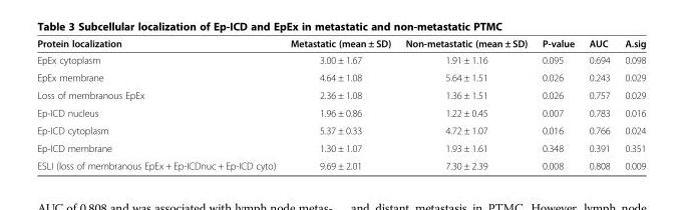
<table><thead><tr><td>Protein localization</td><td>Metastatic (mean ± SD)</td><td>Non-metastatic (mean ± SD)</td><td>P-value</td><td>AUC</td><td>A.sig</td></tr></thead><tbody><tr><td>EpEx cytoplasm</td><td>3.00 ± 1.67</td><td>1.91 ± 1.16</td><td>0.095</td><td>0.694</td><td>0.098</td></tr><tr><td>EpEx membrane</td><td>4.64 ± 1.08</td><td>5.64 ± 1.51</td><td>0.026</td><td>0.243</td><td>0.029</td></tr><tr><td>Loss of membranous EpEx</td><td>2.36 ± 1.08</td><td>1.36 ± 1.51</td><td>0.026</td><td>0.757</td><td>0.029</td></tr><tr><td>Ep-ICD nucleus</td><td>1.96 ± 0.86</td><td>1.22 ± 0.45</td><td>0.007</td><td>0.783</td><td>0.016</td></tr><tr><td>Ep-ICD cytoplasm</td><td>5.37 ± 0.33</td><td>4.72 ± 1.07</td><td>0.016</td><td>0.766</td><td>0.024</td></tr><tr><td>Ep-ICD membrane</td><td>1.30 ± 1.07</td><td>1.93 ± 1.61</td><td>0.348</td><td>0.391</td><td>0.351</td></tr><tr><td>ESLI (loss of membranous EpEx + Ep-ICDnuc + Ep-ICD cyto)</td><td>9.69 ± 2.01</td><td>7.30 ± 2.39</td><td>0.008</td><td>0.808</td><td>0.009</td></tr></tbody></table>